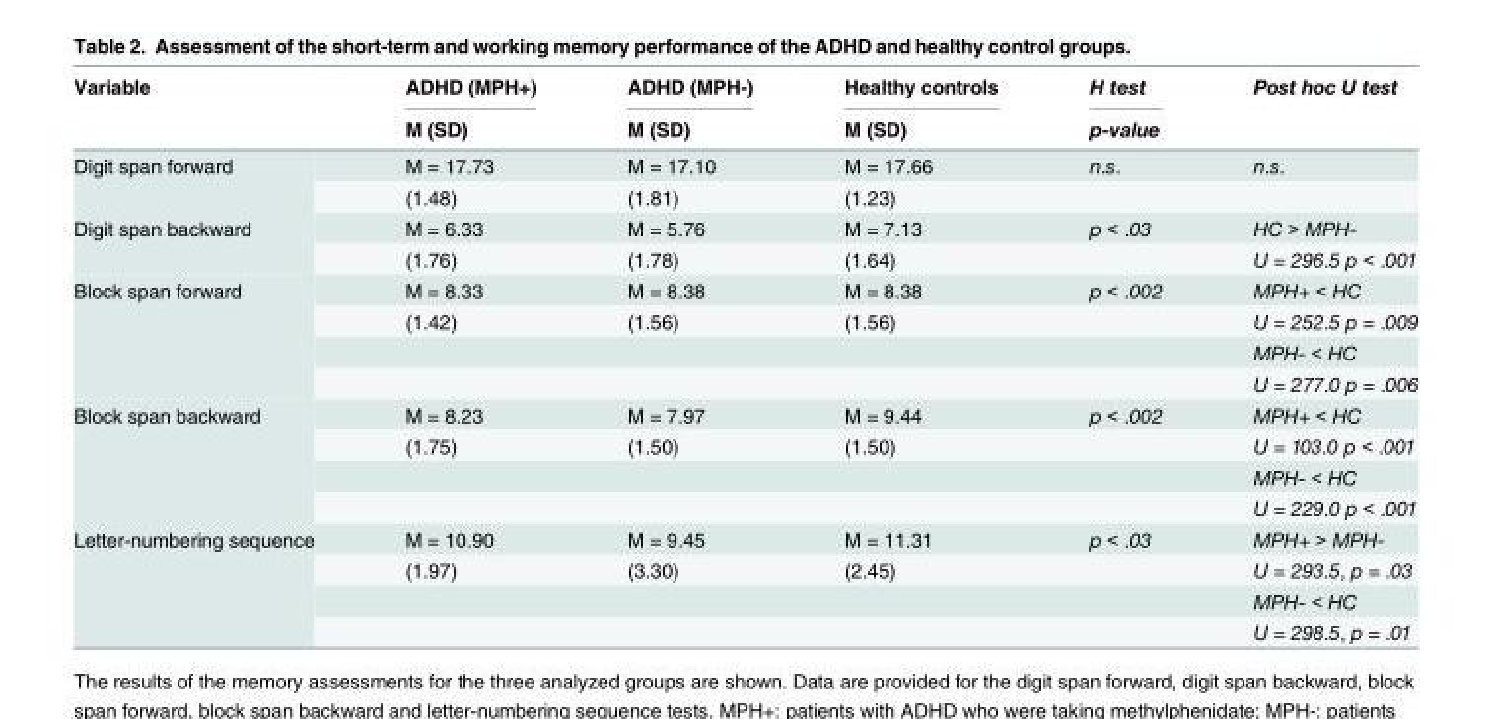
<table><thead><tr><td rowspan="2">Variable</td><td rowspan="2">ADHD (MPH+) M (SD)</td><td rowspan="2">ADHD (MPH-) M (SD)</td><td rowspan="2">Healthy controls M (SD)</td><td rowspan="2">H test p-value</td><td rowspan="2">Post hoc U test</td></tr><tr></tr></thead><tbody><tr><td rowspan="2">Digit span forward</td><td>M = 17.73</td><td>M = 17.10</td><td>M = 17.66</td><td>n.s.</td><td>n.s.</td></tr><tr><td>(1.48)</td><td>(1.81)</td><td>(1.23)</td><td></td><td></td></tr><tr><td rowspan="2">Digit span backward</td><td>M = 6.33</td><td>M = 5.76</td><td>M = 7.13</td><td>p &lt; .03</td><td>HC &gt; MPH-</td></tr><tr><td>(1.76)</td><td>(1.78)</td><td>(1.64)</td><td></td><td>U = 296.5 p &lt; .001</td></tr><tr><td rowspan="4">Block span forward</td><td>M = 8.33</td><td>M = 8.38</td><td>M = 8.38</td><td>p &lt; .002</td><td>MPH+ &lt; HC</td></tr><tr><td>(1.42)</td><td>(1.56)</td><td>(1.56)</td><td></td><td>U = 252.5 p = .009</td></tr><tr><td></td><td></td><td></td><td></td><td>MPH- &lt; HC</td></tr><tr><td></td><td></td><td></td><td></td><td>U = 277.0 p = .006</td></tr><tr><td rowspan="4">Block span backward</td><td>M = 8.23</td><td>M = 7.97</td><td>M = 9.44</td><td>p &lt; .002</td><td>MPH+ &lt; HC</td></tr><tr><td>(1.75)</td><td>(1.50)</td><td>(1.50)</td><td></td><td>U = 103.0 p &lt; .001</td></tr><tr><td></td><td></td><td></td><td></td><td>MPH- &lt; HC</td></tr><tr><td></td><td></td><td></td><td></td><td>U = 229.0 p &lt; .001</td></tr><tr><td rowspan="4">Letter-numbering sequence</td><td>M = 10.90</td><td>M = 9.45</td><td>M = 11.31</td><td>p &lt; .03</td><td>MPH+ &gt; MPH-</td></tr><tr><td>(1.97)</td><td>(3.30)</td><td>(2.45)</td><td></td><td>U = 293.5, p = .03</td></tr><tr><td></td><td></td><td></td><td></td><td>MPH- &lt; HC</td></tr><tr><td></td><td></td><td></td><td></td><td>U = 298.5, p = .01</td></tr></tbody></table>